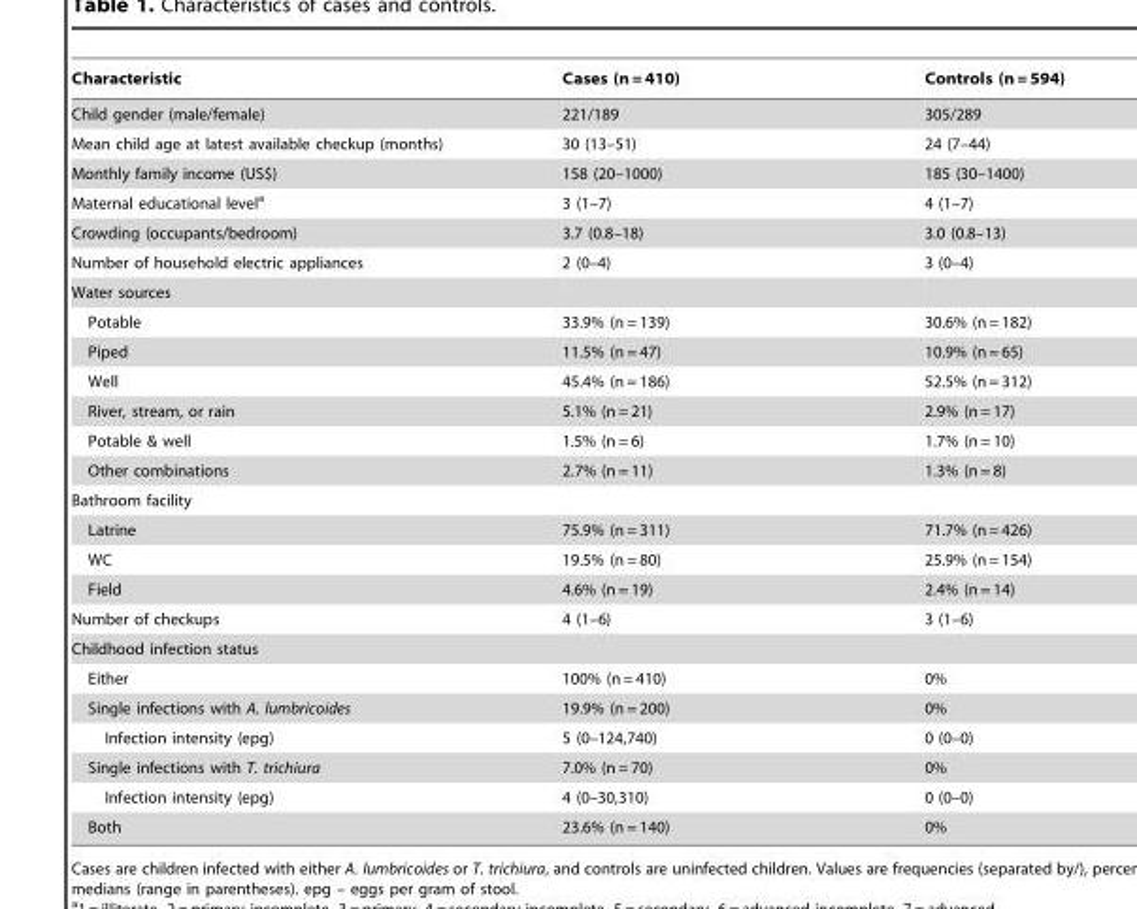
<table><thead><tr><td>Characteristic</td><td>Cases (n = 410)</td><td>Controls (n = 594)</td></tr></thead><tbody><tr><td>Child gender (male/female)</td><td>221/189</td><td>305/289</td></tr><tr><td>Mean child age at latest available checkup (months)</td><td>30 (13–51)</td><td>24 (7–44)</td></tr><tr><td>Monthly family income (US$)</td><td>158 (20–1000)</td><td>185 (30–1400)</td></tr><tr><td>Maternal educational level<sup>a</sup></td><td>3 (1–7)</td><td>4 (1–7)</td></tr><tr><td>Crowding (occupants/bedroom)</td><td>3.7 (0.8–18)</td><td>3.0 (0.8–13)</td></tr><tr><td>Number of household electric appliances</td><td>2 (0–4)</td><td>3 (0–4)</td></tr><tr><td colspan="3">Water sources</td></tr><tr><td>Potable</td><td>33.9% (n = 139)</td><td>30.6% (n = 182)</td></tr><tr><td>Piped</td><td>11.5% (n = 47)</td><td>10.9% (n = 65)</td></tr><tr><td>Well</td><td>45.4% (n = 186)</td><td>52.5% (n = 312)</td></tr><tr><td>River, stream, or rain</td><td>5.1% (n = 21)</td><td>2.9% (n = 17)</td></tr><tr><td>Potable &amp; well</td><td>1.5% (n = 6)</td><td>1.7% (n = 10)</td></tr><tr><td>Other combinations</td><td>2.7% (n = 11)</td><td>1.3% (n = 8)</td></tr><tr><td colspan="3">Bathroom facility</td></tr><tr><td>Latrine</td><td>75.9% (n = 311)</td><td>71.7% (n = 426)</td></tr><tr><td>WC</td><td>19.5% (n = 80)</td><td>25.9% (n = 154)</td></tr><tr><td>Field</td><td>4.6% (n = 19)</td><td>2.4% (n = 14)</td></tr><tr><td>Number of checkups</td><td>4 (1–6)</td><td>3 (1–6)</td></tr><tr><td colspan="3">Childhood infection status</td></tr><tr><td>Either</td><td>100% (n = 410)</td><td>0%</td></tr><tr><td>Single infections with A. lumbricoides</td><td>19.9% (n = 200)</td><td>0%</td></tr><tr><td>Infection intensity (epg)</td><td>5 (0–124,740)</td><td>0 (0–0)</td></tr><tr><td>Single infections with T. trichiura</td><td>7.0% (n = 70)</td><td>0%</td></tr><tr><td>Infection intensity (epg)</td><td>4 (0–30,310)</td><td>0 (0–0)</td></tr><tr><td>Both</td><td>23.6% (n = 140)</td><td>0%</td></tr></tbody></table>